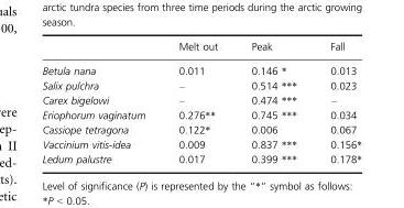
<table><thead><tr><td></td><td>Melt out</td><td>Peak</td><td>Fall</td></tr></thead><tbody><tr><td>Betula nana</td><td>0.011</td><td>0.146 *</td><td>0.013</td></tr><tr><td>Salix pulchra</td><td>–</td><td>0.514 ***</td><td>0.023</td></tr><tr><td>Carex bigelowi</td><td>–</td><td>0.474 ***</td><td>–</td></tr><tr><td>Eriophorum vaginatum</td><td>0.276**</td><td>0.745 ***</td><td>0.034</td></tr><tr><td>Cassiope tetragona</td><td>0.122*</td><td>0.006</td><td>0.067</td></tr><tr><td>Vaccinium vitis-idea</td><td>0.009</td><td>0.837 ***</td><td>0.156*</td></tr><tr><td>Ledum palustre</td><td>0.017</td><td>0.399 ***</td><td>0.178*</td></tr></tbody></table>